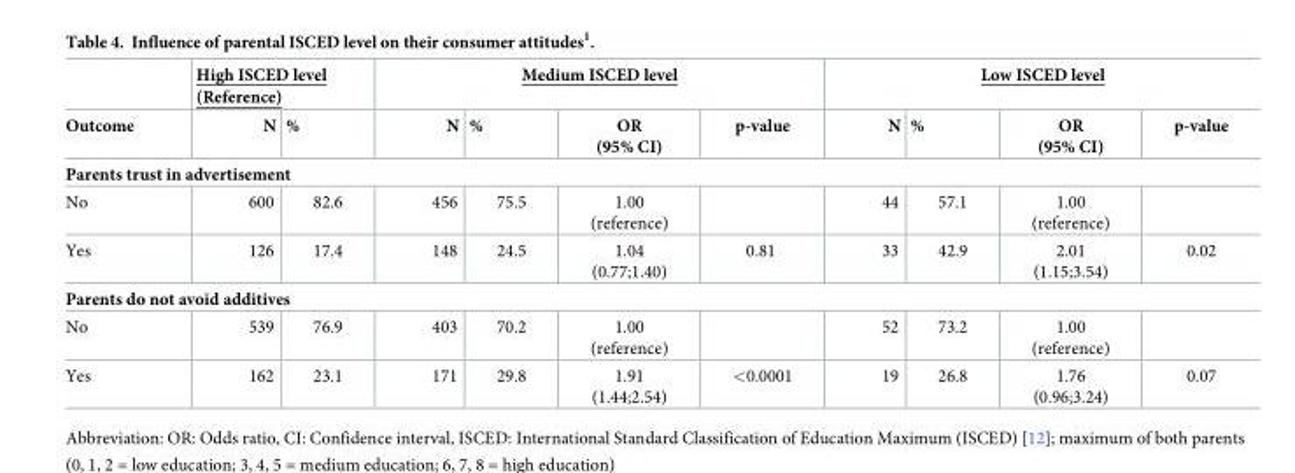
<table><thead><tr><td rowspan="2">Outcome</td><td colspan="2">High ISCED level (Reference)</td><td colspan="4">Medium ISCED level</td><td colspan="4">Low ISCED level</td></tr><tr><td>N</td><td>%</td><td>N</td><td>%</td><td>OR (95% CI)</td><td>p-value</td><td>N</td><td>%</td><td>OR (95% CI)</td><td>p-value</td></tr></thead><tbody><tr><td colspan="11">Parents trust in advertisement</td></tr><tr><td>No</td><td>600</td><td>82.6</td><td>456</td><td>75.5</td><td>1.00 (reference)</td><td></td><td>44</td><td>57.1</td><td>1.00 (reference)</td><td></td></tr><tr><td>Yes</td><td>126</td><td>17.4</td><td>148</td><td>24.5</td><td>1.04 (0.77;1.40)</td><td>0.81</td><td>33</td><td>42.9</td><td>2.01 (1.15;3.54)</td><td>0.02</td></tr><tr><td colspan="11">Parents do not avoid additives</td></tr><tr><td>No</td><td>539</td><td>76.9</td><td>403</td><td>70.2</td><td>1.00 (reference)</td><td></td><td>52</td><td>73.2</td><td>1.00 (reference)</td><td></td></tr><tr><td>Yes</td><td>162</td><td>23.1</td><td>171</td><td>29.8</td><td>1.91 (1.44;2.54)</td><td>&lt;0.0001</td><td>19</td><td>26.8</td><td>1.76 (0.96;3.24)</td><td>0.07</td></tr></tbody></table>